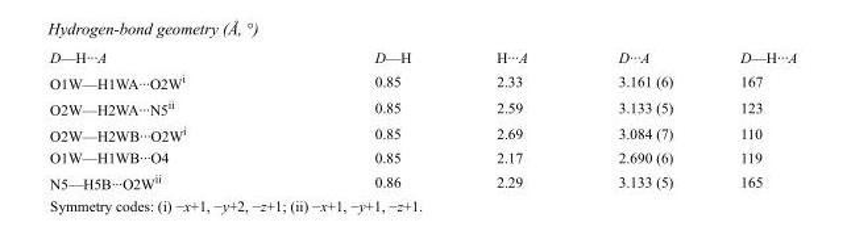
<table><tbody><tr><td>D—H···A</td><td>D—H</td><td>H···A</td><td>D···A</td><td>D—H···A</td></tr><tr><td>O1W—H1WA···O2W<sup>i</sup></td><td>0.85</td><td>2.33</td><td>3.161 (6)</td><td>167</td></tr><tr><td>O2W—H2WA···N5<sup>ii</sup></td><td>0.85</td><td>2.59</td><td>3.133 (5)</td><td>123</td></tr><tr><td>O2W—H2WB···O2W<sup>i</sup></td><td>0.85</td><td>2.69</td><td>3.084 (7)</td><td>110</td></tr><tr><td>O1W—H1WB···O4</td><td>0.85</td><td>2.17</td><td>2.690 (6)</td><td>119</td></tr><tr><td>N5—H5B···O2W<sup>ii</sup></td><td>0.86</td><td>2.29</td><td>3.133 (5)</td><td>165</td></tr></tbody></table>